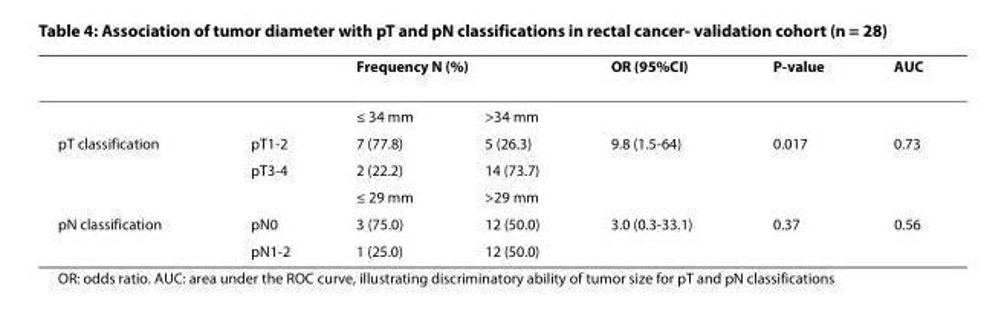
<table><thead><tr><td rowspan="2"></td><td rowspan="2"></td><td colspan="2">Frequency N (%)</td><td rowspan="2">OR (95%CI)</td><td rowspan="2">P-value</td><td rowspan="2">AUC</td></tr><tr><td>≤ 34 mm</td><td>&gt;34 mm</td></tr></thead><tbody><tr><td rowspan="3">pT classification</td><td>pT1-2</td><td>7 (77.8)</td><td>5 (26.3)</td><td>9.8 (1.5-64)</td><td>0.017</td><td>0.73</td></tr><tr><td>pT3-4</td><td>2 (22.2)</td><td>14 (73.7)</td><td></td><td></td><td></td></tr><tr><td></td><td>≤ 29 mm</td><td>&gt;29 mm</td><td></td><td></td><td></td></tr><tr><td rowspan="2">pN classification</td><td>pN0</td><td>3 (75.0)</td><td>12 (50.0)</td><td>3.0 (0.3-33.1)</td><td>0.37</td><td>0.56</td></tr><tr><td>pN1-2</td><td>1 (25.0)</td><td>12 (50.0)</td><td></td><td></td><td></td></tr></tbody></table>